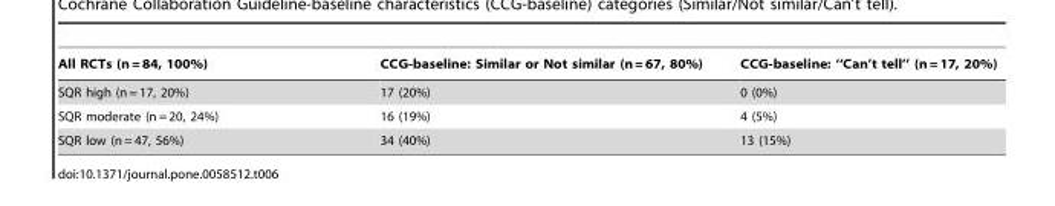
<table><thead><tr><td>All RCTs (n = 84, 100%)</td><td>CCG-baseline: Similar or Not similar (n = 67, 80%)</td><td>CCG-baseline: ‘‘Can’t tell’’ (n = 17, 20%)</td></tr></thead><tbody><tr><td>SQR high (n = 17, 20%)</td><td>17 (20%)</td><td>0 (0%)</td></tr><tr><td>SQR moderate (n = 20, 24%)</td><td>16 (19%)</td><td>4 (5%)</td></tr><tr><td>SQR low (n = 47, 56%)</td><td>34 (40%)</td><td>13 (15%)</td></tr></tbody></table>